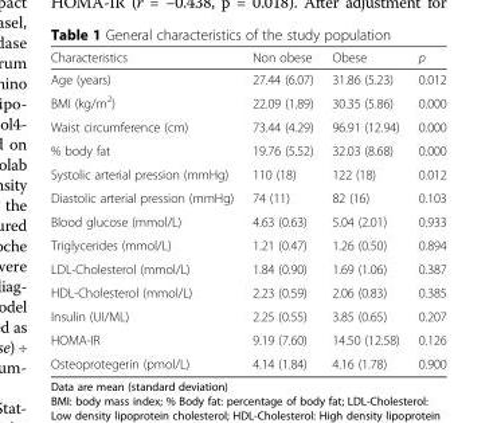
<table><thead><tr><td>Characteristics</td><td>Non obese</td><td>Obese</td><td>p</td></tr></thead><tbody><tr><td>Age (years)</td><td>27.44 (6.07)</td><td>31.86 (5.23)</td><td>0.012</td></tr><tr><td>BMI (kg/m<sup>2</sup>)</td><td>22.09 (1.89)</td><td>30.35 (5.86)</td><td>0.000</td></tr><tr><td>Waist circumference (cm)</td><td>73.44 (4.29)</td><td>96.91 (12.94)</td><td>0.000</td></tr><tr><td>% body fat</td><td>19.76 (5.52)</td><td>32.03 (8.68)</td><td>0.000</td></tr><tr><td>Systolic arterial pression (mmHg)</td><td>110 (18)</td><td>122 (18)</td><td>0.012</td></tr><tr><td>Diastolic arterial pression (mmHg)</td><td>74 (11)</td><td>82 (16)</td><td>0.103</td></tr><tr><td>Blood glucose (mmol/L)</td><td>4.63 (0.63)</td><td>5.04 (2.01)</td><td>0.933</td></tr><tr><td>Triglycerides (mmol/L)</td><td>1.21 (0.47)</td><td>1.26 (0.50)</td><td>0.894</td></tr><tr><td>LDL-Cholesterol (mmol/L)</td><td>1.84 (0.90)</td><td>1.69 (1.06)</td><td>0.387</td></tr><tr><td>HDL-Cholesterol (mmol/L)</td><td>2.23 (0.59)</td><td>2.06 (0.83)</td><td>0.385</td></tr><tr><td>Insulin (UI/ML)</td><td>2.25 (0.55)</td><td>3.85 (0.65)</td><td>0.207</td></tr><tr><td>HOMA-IR</td><td>9.19 (7.60)</td><td>14.50 (12.58)</td><td>0.126</td></tr><tr><td>Osteoprotegerin (pmol/L)</td><td>4.14 (1.84)</td><td>4.16 (1.78)</td><td>0.900</td></tr></tbody></table>